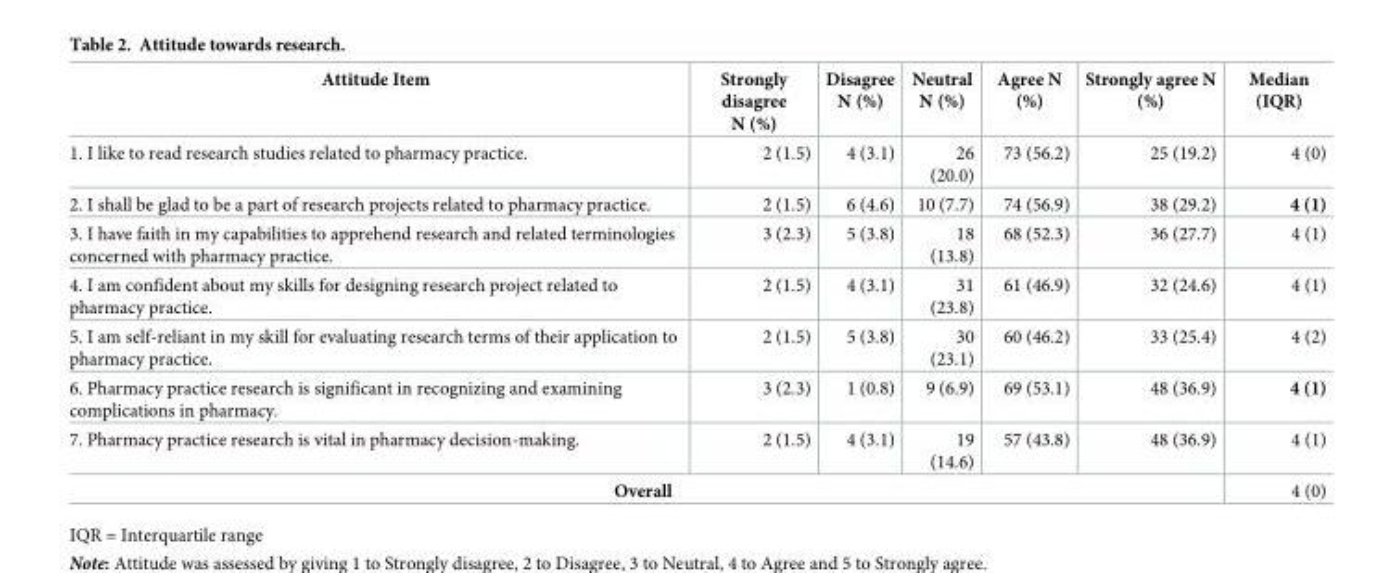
<table><thead><tr><td>Attitude Item</td><td>Strongly disagree N (%)</td><td>Disagree N (%)</td><td>Neutral N (%)</td><td>Agree N (%)</td><td>Strongly agree N (%)</td><td>Median (IQR)</td></tr></thead><tbody><tr><td>1. I like to read research studies related to pharmacy practice.</td><td>2 (1.5)</td><td>4 (3.1)</td><td>26 (20.0)</td><td>73 (56.2)</td><td>25 (19.2)</td><td>4 (0)</td></tr><tr><td>2. I shall be glad to be a part of research projects related to pharmacy practice.</td><td>2 (1.5)</td><td>6 (4.6)</td><td>10 (7.7)</td><td>74 (56.9)</td><td>38 (29.2)</td><td>4 (1)</td></tr><tr><td>3. I have faith in my capabilities to apprehend research and related terminologies concerned with pharmacy practice.</td><td>3 (2.3)</td><td>5 (3.8)</td><td>18 (13.8)</td><td>68 (52.3)</td><td>36 (27.7)</td><td>4 (1)</td></tr><tr><td>4. I am confident about my skills for designing research project related to pharmacy practice.</td><td>2 (1.5)</td><td>4 (3.1)</td><td>31 (23.8)</td><td>61 (46.9)</td><td>32 (24.6)</td><td>4 (1)</td></tr><tr><td>5. I am self-reliant in my skill for evaluating research terms of their application to pharmacy practice.</td><td>2 (1.5)</td><td>5 (3.8)</td><td>30 (23.1)</td><td>60 (46.2)</td><td>33 (25.4)</td><td>4 (2)</td></tr><tr><td>6. Pharmacy practice research is significant in recognizing and examining complications in pharmacy.</td><td>3 (2.3)</td><td>1 (0.8)</td><td>9 (6.9)</td><td>69 (53.1)</td><td>48 (36.9)</td><td>4 (1)</td></tr><tr><td>7. Pharmacy practice research is vital in pharmacy decision-making.</td><td>2 (1.5)</td><td>4 (3.1)</td><td>19 (14.6)</td><td>57 (43.8)</td><td>48 (36.9)</td><td>4 (1)</td></tr><tr><td colspan="6">Overall</td><td>4 (0)</td></tr></tbody></table>